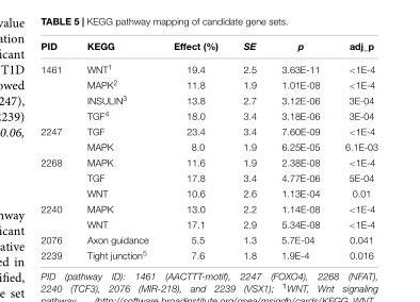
<table><thead><tr><td>PID</td><td>KEGG</td><td>Effect (%)</td><td>SE</td><td>p</td><td>adj_p</td></tr></thead><tbody><tr><td rowspan="4">1461</td><td>WNT<sup>1</sup></td><td>19.4</td><td>2.5</td><td>3.63E-11</td><td>&lt;1E-4</td></tr><tr><td>MAPK<sup>2</sup></td><td>11.8</td><td>1.9</td><td>1.01E-08</td><td>&lt;1E-4</td></tr><tr><td>INSULIN<sup>3</sup></td><td>13.8</td><td>2.7</td><td>3.12E-06</td><td>3E-04</td></tr><tr><td>TGF<sup>4</sup></td><td>18.0</td><td>3.4</td><td>3.18E-06</td><td>3E-04</td></tr><tr><td rowspan="2">2247</td><td>TGF</td><td>23.4</td><td>3.4</td><td>7.60E-09</td><td>&lt;1E-4</td></tr><tr><td>MAPK</td><td>8.0</td><td>1.9</td><td>6.25E-05</td><td>6.1E-03</td></tr><tr><td rowspan="3">2268</td><td>MAPK</td><td>11.6</td><td>1.9</td><td>2.38E-08</td><td>&lt;1E-4</td></tr><tr><td>TGF</td><td>17.8</td><td>3.4</td><td>4.77E-06</td><td>5E-04</td></tr><tr><td>WNT</td><td>10.6</td><td>2.6</td><td>1.13E-04</td><td>0.01</td></tr><tr><td rowspan="2">2240</td><td>MAPK</td><td>13.0</td><td>2.2</td><td>1.14E-08</td><td>&lt;1E-4</td></tr><tr><td>WNT</td><td>17.1</td><td>2.9</td><td>5.34E-08</td><td>&lt;1E-4</td></tr><tr><td>2076</td><td>Axon guidance</td><td>5.5</td><td>1.3</td><td>5.7E-04</td><td>0.041</td></tr><tr><td>2239</td><td>Tight junction<sup>5</sup></td><td>7.6</td><td>1.8</td><td>1.9E-4</td><td>0.016</td></tr></tbody></table>